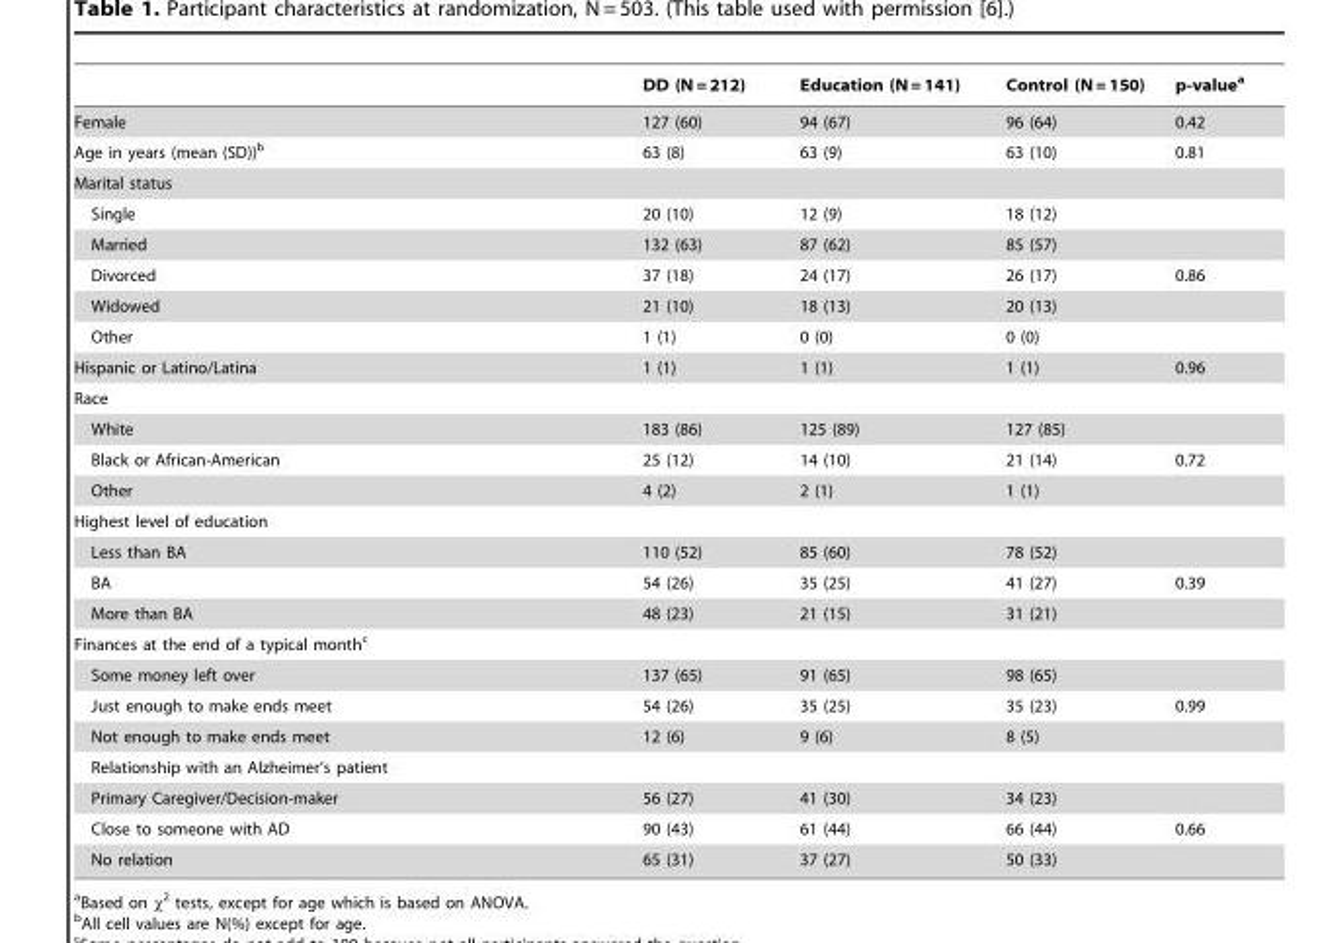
<table><thead><tr><td></td><td>DD (N = 212)</td><td>Education (N = 141)</td><td>Control (N = 150)</td><td>p-value<sup>a</sup></td></tr></thead><tbody><tr><td>Female</td><td>127 (60)</td><td>94 (67)</td><td>96 (64)</td><td>0.42</td></tr><tr><td>Age in years (mean (SD))<sup>b</sup></td><td>63 (8)</td><td>63 (9)</td><td>63 (10)</td><td>0.81</td></tr><tr><td colspan="5">Marital status</td></tr><tr><td>Single</td><td>20 (10)</td><td>12 (9)</td><td>18 (12)</td><td></td></tr><tr><td>Married</td><td>132 (63)</td><td>87 (62)</td><td>85 (57)</td><td></td></tr><tr><td>Divorced</td><td>37 (18)</td><td>24 (17)</td><td>26 (17)</td><td>0.86</td></tr><tr><td>Widowed</td><td>21 (10)</td><td>18 (13)</td><td>20 (13)</td><td></td></tr><tr><td>Other</td><td>1 (1)</td><td>0 (0)</td><td>0 (0)</td><td></td></tr><tr><td>Hispanic or Latino/Latina</td><td>1 (1)</td><td>1 (1)</td><td>1 (1)</td><td>0.96</td></tr><tr><td colspan="5">Race</td></tr><tr><td>White</td><td>183 (86)</td><td>125 (89)</td><td>127 (85)</td><td></td></tr><tr><td>Black or African-American</td><td>25 (12)</td><td>14 (10)</td><td>21 (14)</td><td>0.72</td></tr><tr><td>Other</td><td>4 (2)</td><td>2 (1)</td><td>1 (1)</td><td></td></tr><tr><td colspan="5">Highest level of education</td></tr><tr><td>Less than BA</td><td>110 (52)</td><td>85 (60)</td><td>78 (52)</td><td></td></tr><tr><td>BA</td><td>54 (26)</td><td>35 (25)</td><td>41 (27)</td><td>0.39</td></tr><tr><td>More than BA</td><td>48 (23)</td><td>21 (15)</td><td>31 (21)</td><td></td></tr><tr><td colspan="5">Finances at the end of a typical month<sup>c</sup></td></tr><tr><td>Some money left over</td><td>137 (65)</td><td>91 (65)</td><td>98 (65)</td><td></td></tr><tr><td>Just enough to make ends meet</td><td>54 (26)</td><td>35 (25)</td><td>35 (23)</td><td>0.99</td></tr><tr><td>Not enough to make ends meet</td><td>12 (6)</td><td>9 (6)</td><td>8 (5)</td><td></td></tr><tr><td colspan="5">Relationship with an Alzheimer’s patient</td></tr><tr><td>Primary Caregiver/Decision-maker</td><td>56 (27)</td><td>41 (30)</td><td>34 (23)</td><td></td></tr><tr><td>Close to someone with AD</td><td>90 (43)</td><td>61 (44)</td><td>66 (44)</td><td>0.66</td></tr><tr><td>No relation</td><td>65 (31)</td><td>37 (27)</td><td>50 (33)</td><td></td></tr></tbody></table>